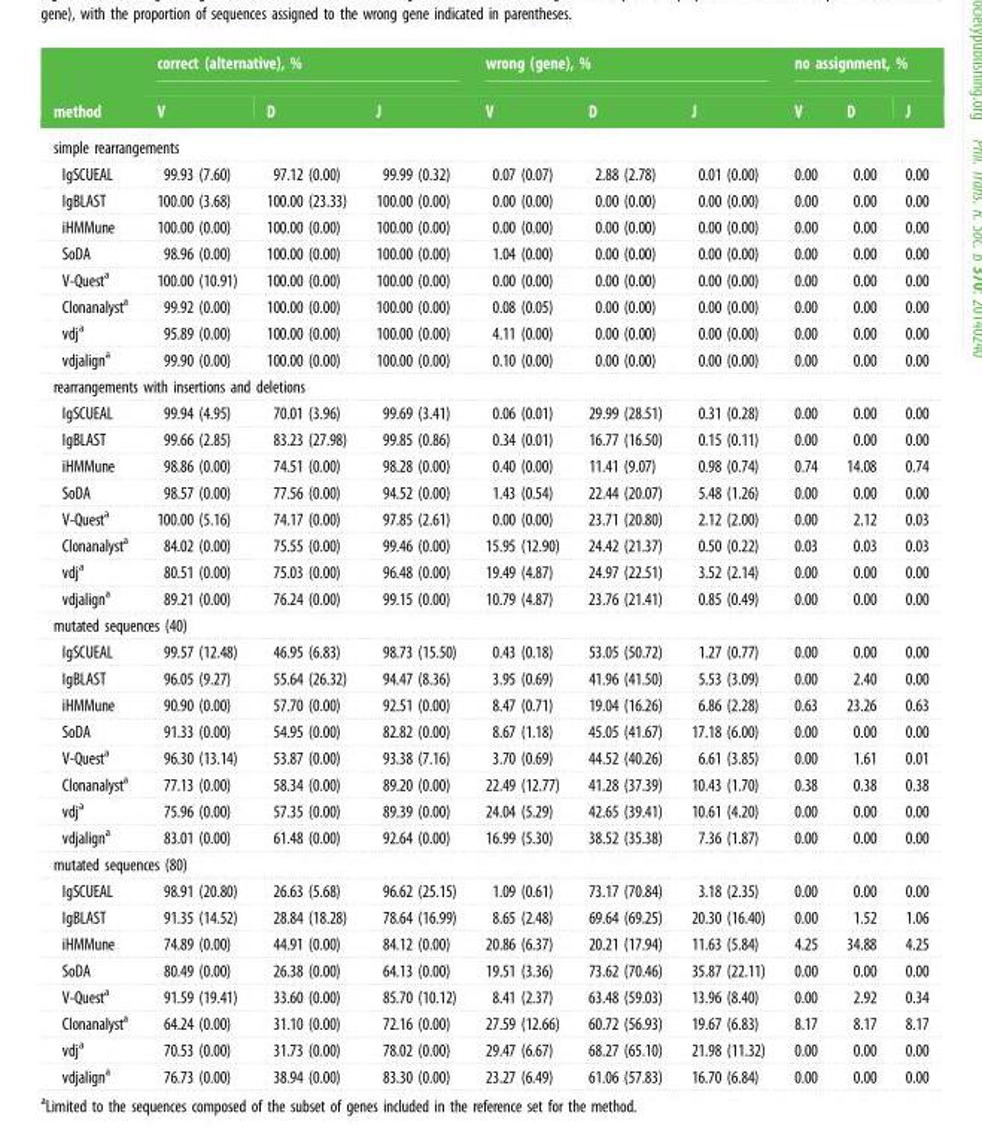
<table><thead><tr><td rowspan="2">method</td><td colspan="3">correct (alternative), %</td><td colspan="3">wrong (gene), %</td><td colspan="3">no assignment, %</td></tr><tr><td>V</td><td>D</td><td>J</td><td>V</td><td>D</td><td>J</td><td>V</td><td>D</td><td>J</td></tr></thead><tbody><tr><td colspan="10">simple rearrangements</td></tr><tr><td>IgSCUEAL</td><td>99.93 (7.60)</td><td>97.12 (0.00)</td><td>99.99 (0.32)</td><td>0.07 (0.07)</td><td>2.88 (2.78)</td><td>0.01 (0.00)</td><td>0.00</td><td>0.00</td><td>0.00</td></tr><tr><td>IgBLAST</td><td>100.00 (3.68)</td><td>100.00 (23.33)</td><td>100.00 (0.00)</td><td>0.00 (0.00)</td><td>0.00 (0.00)</td><td>0.00 (0.00)</td><td>0.00</td><td>0.00</td><td>0.00</td></tr><tr><td>iHMMune</td><td>100.00 (0.00)</td><td>100.00 (0.00)</td><td>100.00 (0.00)</td><td>0.00 (0.00)</td><td>0.00 (0.00)</td><td>0.00 (0.00)</td><td>0.00</td><td>0.00</td><td>0.00</td></tr><tr><td>SoDA</td><td>98.96 (0.00)</td><td>100.00 (0.00)</td><td>100.00 (0.00)</td><td>1.04 (0.00)</td><td>0.00 (0.00)</td><td>0.00 (0.00)</td><td>0.00</td><td>0.00</td><td>0.00</td></tr><tr><td>V-Quest<sup>a</sup></td><td>100.00 (10.91)</td><td>100.00 (0.00)</td><td>100.00 (0.00)</td><td>0.00 (0.00)</td><td>0.00 (0.00)</td><td>0.00 (0.00)</td><td>0.00</td><td>0.00</td><td>0.00</td></tr><tr><td>Clonanalyst<sup>a</sup></td><td>99.92 (0.00)</td><td>100.00 (0.00)</td><td>100.00 (0.00)</td><td>0.08 (0.05)</td><td>0.00 (0.00)</td><td>0.00 (0.00)</td><td>0.00</td><td>0.00</td><td>0.00</td></tr><tr><td>vdj<sup>a</sup></td><td>95.89 (0.00)</td><td>100.00 (0.00)</td><td>100.00 (0.00)</td><td>4.11 (0.00)</td><td>0.00 (0.00)</td><td>0.00 (0.00)</td><td>0.00</td><td>0.00</td><td>0.00</td></tr><tr><td>vdjalign<sup>a</sup></td><td>99.90 (0.00)</td><td>100.00 (0.00)</td><td>100.00 (0.00)</td><td>0.10 (0.00)</td><td>0.00 (0.00)</td><td>0.00 (0.00)</td><td>0.00</td><td>0.00</td><td>0.00</td></tr><tr><td colspan="10">rearrangements with insertions and deletions</td></tr><tr><td>IgSCUEAL</td><td>99.94 (4.95)</td><td>70.01 (3.96)</td><td>99.69 (3.41)</td><td>0.06 (0.01)</td><td>29.99 (28.51)</td><td>0.31 (0.28)</td><td>0.00</td><td>0.00</td><td>0.00</td></tr><tr><td>IgBLAST</td><td>99.66 (2.85)</td><td>83.23 (27.98)</td><td>99.85 (0.86)</td><td>0.34 (0.01)</td><td>16.77 (16.50)</td><td>0.15 (0.11)</td><td>0.00</td><td>0.00</td><td>0.00</td></tr><tr><td>iHMMune</td><td>98.86 (0.00)</td><td>74.51 (0.00)</td><td>98.28 (0.00)</td><td>0.40 (0.00)</td><td>11.41 (9.07)</td><td>0.98 (0.74)</td><td>0.74</td><td>14.08</td><td>0.74</td></tr><tr><td>SoDA</td><td>98.57 (0.00)</td><td>77.56 (0.00)</td><td>94.52 (0.00)</td><td>1.43 (0.54)</td><td>22.44 (20.07)</td><td>5.48 (1.26)</td><td>0.00</td><td>0.00</td><td>0.00</td></tr><tr><td>V-Quest<sup>a</sup></td><td>100.00 (5.16)</td><td>74.17 (0.00)</td><td>97.85 (2.61)</td><td>0.00 (0.00)</td><td>23.71 (20.80)</td><td>2.12 (2.00)</td><td>0.00</td><td>2.12</td><td>0.03</td></tr><tr><td>Clonanalyst<sup>a</sup></td><td>84.02 (0.00)</td><td>75.55 (0.00)</td><td>99.46 (0.00)</td><td>15.95 (12.90)</td><td>24.42 (21.37)</td><td>0.50 (0.22)</td><td>0.03</td><td>0.03</td><td>0.03</td></tr><tr><td>vdj<sup>a</sup></td><td>80.51 (0.00)</td><td>75.03 (0.00)</td><td>96.48 (0.00)</td><td>19.49 (4.87)</td><td>24.97 (22.51)</td><td>3.52 (2.14)</td><td>0.00</td><td>0.00</td><td>0.00</td></tr><tr><td>vdjalign<sup>a</sup></td><td>89.21 (0.00)</td><td>76.24 (0.00)</td><td>99.15 (0.00)</td><td>10.79 (4.87)</td><td>23.76 (21.41)</td><td>0.85 (0.49)</td><td>0.00</td><td>0.00</td><td>0.00</td></tr><tr><td colspan="10">mutated sequences (40)</td></tr><tr><td>IgSCUEAL</td><td>99.57 (12.48)</td><td>46.95 (6.83)</td><td>98.73 (15.50)</td><td>0.43 (0.18)</td><td>53.05 (50.72)</td><td>1.27 (0.77)</td><td>0.00</td><td>0.00</td><td>0.00</td></tr><tr><td>IgBLAST</td><td>96.05 (9.27)</td><td>55.64 (26.32)</td><td>94.47 (8.36)</td><td>3.95 (0.69)</td><td>41.96 (41.50)</td><td>5.53 (3.09)</td><td>0.00</td><td>2.40</td><td>0.00</td></tr><tr><td>iHMMune</td><td>90.90 (0.00)</td><td>57.70 (0.00)</td><td>92.51 (0.00)</td><td>8.47 (0.71)</td><td>19.04 (16.26)</td><td>6.86 (2.28)</td><td>0.63</td><td>23.26</td><td>0.63</td></tr><tr><td>SoDA</td><td>91.33 (0.00)</td><td>54.95 (0.00)</td><td>82.82 (0.00)</td><td>8.67 (1.18)</td><td>45.05 (41.67)</td><td>17.18 (6.00)</td><td>0.00</td><td>0.00</td><td>0.00</td></tr><tr><td>V-Quest<sup>a</sup></td><td>96.30 (13.14)</td><td>53.87 (0.00)</td><td>93.38 (7.16)</td><td>3.70 (0.69)</td><td>44.52 (40.26)</td><td>6.61 (3.85)</td><td>0.00</td><td>1.61</td><td>0.01</td></tr><tr><td>Clonanalyst<sup>a</sup></td><td>77.13 (0.00)</td><td>58.34 (0.00)</td><td>89.20 (0.00)</td><td>22.49 (12.77)</td><td>41.28 (37.39)</td><td>10.43 (1.70)</td><td>0.38</td><td>0.38</td><td>0.38</td></tr><tr><td>vdj<sup>a</sup></td><td>75.96 (0.00)</td><td>57.35 (0.00)</td><td>89.39 (0.00)</td><td>24.04 (5.29)</td><td>42.65 (39.41)</td><td>10.61 (4.20)</td><td>0.00</td><td>0.00</td><td>0.00</td></tr><tr><td>vdjalign<sup>a</sup></td><td>83.01 (0.00)</td><td>61.48 (0.00)</td><td>92.64 (0.00)</td><td>16.99 (5.30)</td><td>38.52 (35.38)</td><td>7.36 (1.87)</td><td>0.00</td><td>0.00</td><td>0.00</td></tr><tr><td colspan="10">mutated sequences (80)</td></tr><tr><td>IgSCUEAL</td><td>98.91 (20.80)</td><td>26.63 (5.68)</td><td>96.62 (25.15)</td><td>1.09 (0.61)</td><td>73.17 (70.84)</td><td>3.18 (2.35)</td><td>0.00</td><td>0.00</td><td>0.00</td></tr><tr><td>IgBLAST</td><td>91.35 (14.52)</td><td>28.84 (18.28)</td><td>78.64 (16.99)</td><td>8.65 (2.48)</td><td>69.64 (69.25)</td><td>20.30 (16.40)</td><td>0.00</td><td>1.52</td><td>1.06</td></tr><tr><td>iHMMune</td><td>74.89 (0.00)</td><td>44.91 (0.00)</td><td>84.12 (0.00)</td><td>20.86 (6.37)</td><td>20.21 (17.94)</td><td>11.63 (5.84)</td><td>4.25</td><td>34.88</td><td>4.25</td></tr><tr><td>SoDA</td><td>80.49 (0.00)</td><td>26.38 (0.00)</td><td>64.13 (0.00)</td><td>19.51 (3.36)</td><td>73.62 (70.46)</td><td>35.87 (22.11)</td><td>0.00</td><td>0.00</td><td>0.00</td></tr><tr><td>V-Quest<sup>a</sup></td><td>91.59 (19.41)</td><td>33.60 (0.00)</td><td>85.70 (10.12)</td><td>8.41 (2.37)</td><td>63.48 (59.03)</td><td>13.96 (8.40)</td><td>0.00</td><td>2.92</td><td>0.34</td></tr><tr><td>Clonanalyst<sup>a</sup></td><td>64.24 (0.00)</td><td>31.10 (0.00)</td><td>72.16 (0.00)</td><td>27.59 (12.66)</td><td>60.72 (56.93)</td><td>19.67 (6.83)</td><td>8.17</td><td>8.17</td><td>8.17</td></tr><tr><td>vdj<sup>a</sup></td><td>70.53 (0.00)</td><td>31.73 (0.00)</td><td>78.02 (0.00)</td><td>29.47 (6.67)</td><td>68.27 (65.10)</td><td>21.98 (11.32)</td><td>0.00</td><td>0.00</td><td>0.00</td></tr><tr><td>vdjalign<sup>a</sup></td><td>76.73 (0.00)</td><td>38.94 (0.00)</td><td>83.30 (0.00)</td><td>23.27 (6.49)</td><td>61.06 (57.83)</td><td>16.70 (6.84)</td><td>0.00</td><td>0.00</td><td>0.00</td></tr></tbody></table>